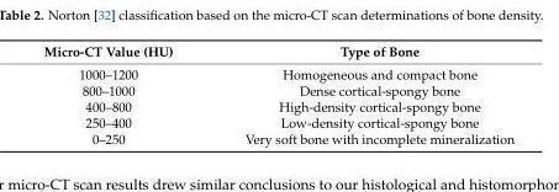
<table><thead><tr><td>Micro-CT Value (HU)</td><td>Type of Bone</td></tr></thead><tbody><tr><td>1000–1200</td><td>Homogeneous and compact bone</td></tr><tr><td>800–1000</td><td>Dense cortical-spongy bone</td></tr><tr><td>400–800</td><td>High-density cortical-spongy bone</td></tr><tr><td>250–400</td><td>Low-density cortical-spongy bone</td></tr><tr><td>0–250</td><td>Very soft bone with incomplete mineralization</td></tr></tbody></table>